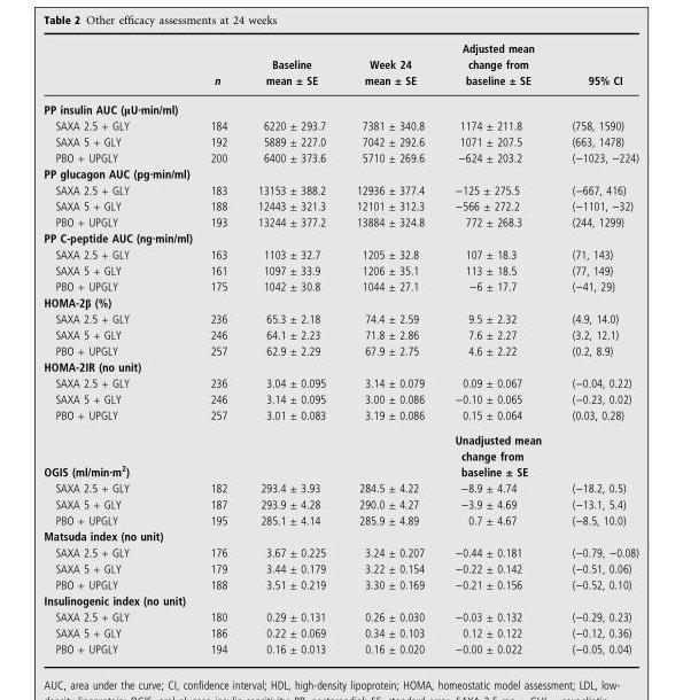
<table><thead><tr><td></td><td>n</td><td>Baseline mean ± SE</td><td>Week 24 mean ± SE</td><td>Adjusted mean change from baseline ± SE</td><td>95% CI</td></tr></thead><tbody><tr><td colspan="6">PP insulin AUC (lUÆmin/ml)</td></tr><tr><td>SAXA 2.5 + GLY</td><td>184</td><td>6220 ± 293.7</td><td>7381 ± 340.8</td><td>1174 ± 211.8</td><td>(758, 1590)</td></tr><tr><td>SAXA 5 + GLY</td><td>192</td><td>5889 ± 227.0</td><td>7042 ± 292.6</td><td>1071 ± 207.5</td><td>(663, 1478)</td></tr><tr><td>PBO + UPGLY</td><td>200</td><td>6400 ± 373.6</td><td>5710 ± 269.6</td><td>−624 ± 203.2</td><td>(−1023, −224)</td></tr><tr><td colspan="6">PP glucagon AUC (pgÆmin/ml)</td></tr><tr><td>SAXA 2.5 + GLY</td><td>183</td><td>13153 ± 388.2</td><td>12936 ± 377.4</td><td>−125 ± 275.5</td><td>(−667, 416)</td></tr><tr><td>SAXA 5 + GLY</td><td>188</td><td>12443 ± 321.3</td><td>12101 ± 312.3</td><td>−566 ± 272.2</td><td>(−1101, −32)</td></tr><tr><td>PBO + UPGLY</td><td>193</td><td>13244 ± 377.2</td><td>13884 ± 324.8</td><td>772 ± 268.3</td><td>(244, 1299)</td></tr><tr><td colspan="6">PP C-peptide AUC (ngÆmin/ml)</td></tr><tr><td>SAXA 2.5 + GLY</td><td>163</td><td>1103 ± 32.7</td><td>1205 ± 32.8</td><td>107 ± 18.3</td><td>(71, 143)</td></tr><tr><td>SAXA 5 + GLY</td><td>161</td><td>1097 ± 33.9</td><td>1206 ± 35.1</td><td>113 ± 18.5</td><td>(77, 149)</td></tr><tr><td>PBO + UPGLY</td><td>175</td><td>1042 ± 30.8</td><td>1044 ± 27.1</td><td>−6 ± 17.7</td><td>(−41, 29)</td></tr><tr><td colspan="6">HOMA-2β (%)</td></tr><tr><td>SAXA 2.5 + GLY</td><td>236</td><td>65.3 ± 2.18</td><td>74.4 ± 2.59</td><td>9.5 ± 2.32</td><td>(4.9, 14.0)</td></tr><tr><td>SAXA 5 + GLY</td><td>246</td><td>64.1 ± 2.23</td><td>71.8 ± 2.86</td><td>7.6 ± 2.27</td><td>(3.2, 12.1)</td></tr><tr><td>PBO + UPGLY</td><td>257</td><td>62.9 ± 2.29</td><td>67.9 ± 2.75</td><td>4.6 ± 2.22</td><td>(0.2, 8.9)</td></tr><tr><td colspan="6">HOMA-2IR (no unit)</td></tr><tr><td>SAXA 2.5 + GLY</td><td>236</td><td>3.04 ± 0.095</td><td>3.14 ± 0.079</td><td>0.09 ± 0.067</td><td>(−0.04, 0.22)</td></tr><tr><td>SAXA 5 + GLY</td><td>246</td><td>3.14 ± 0.095</td><td>3.00 ± 0.086</td><td>−0.10 ± 0.065</td><td>(−0.23, 0.02)</td></tr><tr><td>PBO + UPGLY</td><td>257</td><td>3.01 ± 0.083</td><td>3.19 ± 0.086</td><td>0.15 ± 0.064</td><td>(0.03, 0.28)</td></tr><tr><td>OGIS (ml/minÆm2)</td><td></td><td></td><td></td><td>Unadjusted mean change from baseline ± SE</td><td></td></tr><tr><td>SAXA 2.5 + GLY</td><td>182</td><td>293.4 ± 3.93</td><td>284.5 ± 4.22</td><td>−8.9 ± 4.74</td><td>(−18.2, 0.5)</td></tr><tr><td>SAXA 5 + GLY</td><td>187</td><td>293.9 ± 4.28</td><td>290.0 ± 4.27</td><td>−3.9 ± 4.69</td><td>(−13.1, 5.4)</td></tr><tr><td>PBO + UPGLY</td><td>195</td><td>285.1 ± 4.14</td><td>285.9 ± 4.89</td><td>0.7 ± 4.67</td><td>(−8.5, 10.0)</td></tr><tr><td colspan="6">Matsuda index (no unit)</td></tr><tr><td>SAXA 2.5 + GLY</td><td>176</td><td>3.67 ± 0.225</td><td>3.24 ± 0.207</td><td>−0.44 ± 0.181</td><td>(−0.79, −0.08)</td></tr><tr><td>SAXA 5 + GLY</td><td>179</td><td>3.44 ± 0.179</td><td>3.22 ± 0.154</td><td>−0.22 ± 0.142</td><td>(−0.51, 0.06)</td></tr><tr><td>PBO + UPGLY</td><td>188</td><td>3.51 ± 0.219</td><td>3.30 ± 0.169</td><td>−0.21 ± 0.156</td><td>(−0.52, 0.10)</td></tr><tr><td colspan="6">Insulinogenic index (no unit)</td></tr><tr><td>SAXA 2.5 + GLY</td><td>180</td><td>0.29 ± 0.131</td><td>0.26 ± 0.030</td><td>−0.03 ± 0.132</td><td>(−0.29, 0.23)</td></tr><tr><td>SAXA 5 + GLY</td><td>186</td><td>0.22 ± 0.069</td><td>0.34 ± 0.103</td><td>0.12 ± 0.122</td><td>(−0.12, 0.36)</td></tr><tr><td>PBO + UPGLY</td><td>194</td><td>0.16 ± 0.013</td><td>0.16 ± 0.020</td><td>−0.00 ± 0.022</td><td>(−0.05, 0.04)</td></tr></tbody></table>